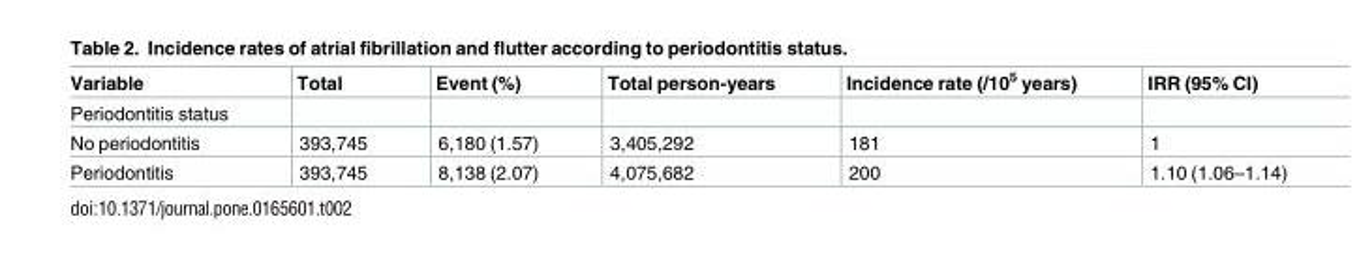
<table><thead><tr><td>Variable</td><td>Total</td><td>Event (%)</td><td>Total person-years</td><td>Incidence rate (/10<sup>5</sup> years)</td><td>IRR (95% CI)</td></tr></thead><tbody><tr><td colspan="6">Periodontitis status</td></tr><tr><td>No periodontitis</td><td>393,745</td><td>6,180 (1.57)</td><td>3,405,292</td><td>181</td><td>1</td></tr><tr><td>Periodontitis</td><td>393,745</td><td>8,138 (2.07)</td><td>4,075,682</td><td>200</td><td>1.10 (1.06–1.14)</td></tr></tbody></table>